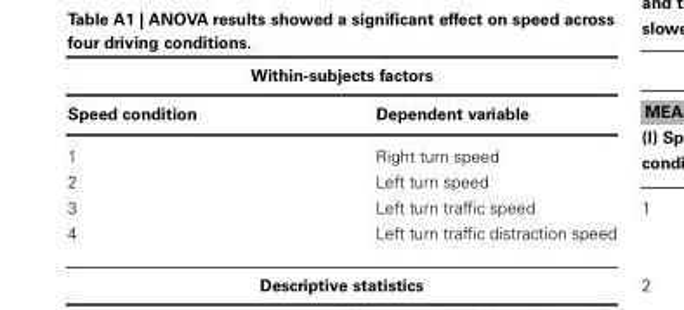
<table><thead><tr><td colspan="2">Within-subjects factors</td></tr><tr><td>Speed condition</td><td>Dependent variable</td></tr></thead><tbody><tr><td>1</td><td>Right turn speed</td></tr><tr><td>2</td><td>Left turn speed</td></tr><tr><td>3</td><td>Left turn traffic speed</td></tr><tr><td>4</td><td>Left turn traffic distraction speed</td></tr></tbody></table>